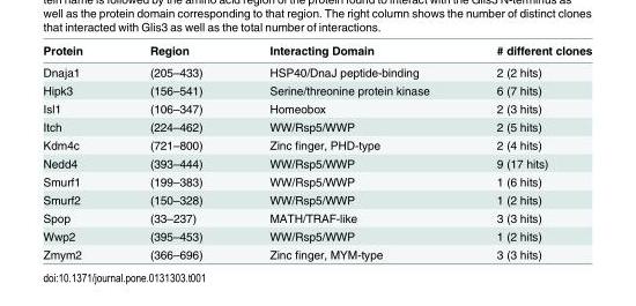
<table><thead><tr><td>Protein</td><td>Region</td><td>Interacting Domain</td><td># different clones</td></tr></thead><tbody><tr><td>Dnaja1</td><td>(205–433)</td><td>HSP40/DnaJ peptide-binding</td><td>2 (2 hits)</td></tr><tr><td>Hipk3</td><td>(156–541)</td><td>Serine/threonine protein kinase</td><td>6 (7 hits)</td></tr><tr><td>Isl1</td><td>(106–347)</td><td>Homeobox</td><td>2 (3 hits)</td></tr><tr><td>Itch</td><td>(224–462)</td><td>WW/Rsp5/WWP</td><td>2 (5 hits)</td></tr><tr><td>Kdm4c</td><td>(721–800)</td><td>Zinc finger, PHD-type</td><td>2 (4 hits)</td></tr><tr><td>Nedd4</td><td>(393–444)</td><td>WW/Rsp5/WWP</td><td>9 (17 hits)</td></tr><tr><td>Smurf1</td><td>(199–383)</td><td>WW/Rsp5/WWP</td><td>1 (6 hits)</td></tr><tr><td>Smurf2</td><td>(150–328)</td><td>WW/Rsp5/WWP</td><td>1 (2 hits)</td></tr><tr><td>Spop</td><td>(33–237)</td><td>MATH/TRAF-like</td><td>3 (3 hits)</td></tr><tr><td>Wwp2</td><td>(395–453)</td><td>WW/Rsp5/WWP</td><td>1 (2 hits)</td></tr><tr><td>Zmym2</td><td>(366–696)</td><td>Zinc finger, MYM-type</td><td>3 (3 hits)</td></tr></tbody></table>